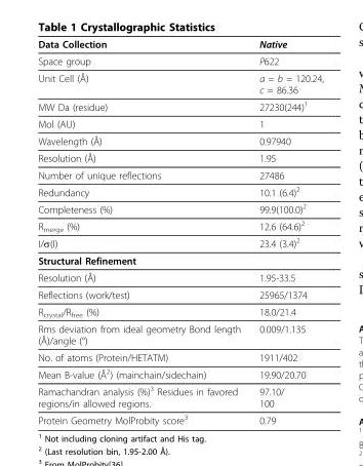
<table><thead><tr><td>Data Collection</td><td>Native</td></tr></thead><tbody><tr><td>Space group</td><td>P622</td></tr><tr><td>Unit Cell (Å)</td><td>a = b = 120.24, c = 86.36</td></tr><tr><td>MW Da (residue)</td><td>27230(244)<sup>1</sup></td></tr><tr><td>Mol (AU)</td><td>1</td></tr><tr><td>Wavelength (Å)</td><td>0.97940</td></tr><tr><td>Resolution (Å)</td><td>1.95</td></tr><tr><td>Number of unique reflections</td><td>27486</td></tr><tr><td>Redundancy</td><td>10.1 (6.4)<sup>2</sup></td></tr><tr><td>Completeness (%)</td><td>99.9(100.0)<sup>2</sup></td></tr><tr><td>R<sub>merge</sub> (%)</td><td>12.6 (64.6)<sup>2</sup></td></tr><tr><td>I/σ(I)</td><td>23.4 (3.4)<sup>2</sup></td></tr><tr><td colspan="2">Structural Refinement</td></tr><tr><td>Resolution (Å)</td><td>1.95-33.5</td></tr><tr><td>Reflections (work/test)</td><td>25965/1374</td></tr><tr><td>R<sub>crystal</sub>/R<sub>free</sub> (%)</td><td>18.0/21.4</td></tr><tr><td>Rms deviation from ideal geometry Bond length (Å)/angle (°)</td><td>0.009/1.135</td></tr><tr><td>No. of atoms (Protein/HETATM)</td><td>1911/402</td></tr><tr><td>Mean B-value (Å<sup>2</sup>) (mainchain/sidechain)</td><td>19.90/20.70</td></tr><tr><td>Ramachandran analysis (%)<sup>3</sup> Residues in favored regions/in allowed regions.</td><td>97.10/ 100</td></tr><tr><td>Protein Geometry MolProbity score<sup>3</sup></td><td>0.79</td></tr></tbody></table>